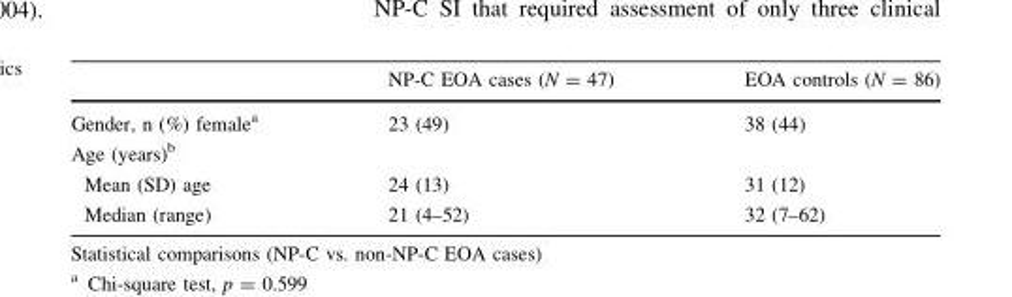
<table><thead><tr><td></td><td>NP-C EOA cases (N = 47)</td><td>EOA controls (N = 86)</td></tr></thead><tbody><tr><td>Gender, n (%) female<sup>a</sup></td><td>23 (49)</td><td>38 (44)</td></tr><tr><td colspan="3">Age (years)<sup>b</sup></td></tr><tr><td>Mean (SD) age</td><td>24 (13)</td><td>31 (12)</td></tr><tr><td>Median (range)</td><td>21 (4–52)</td><td>32 (7–62)</td></tr></tbody></table>